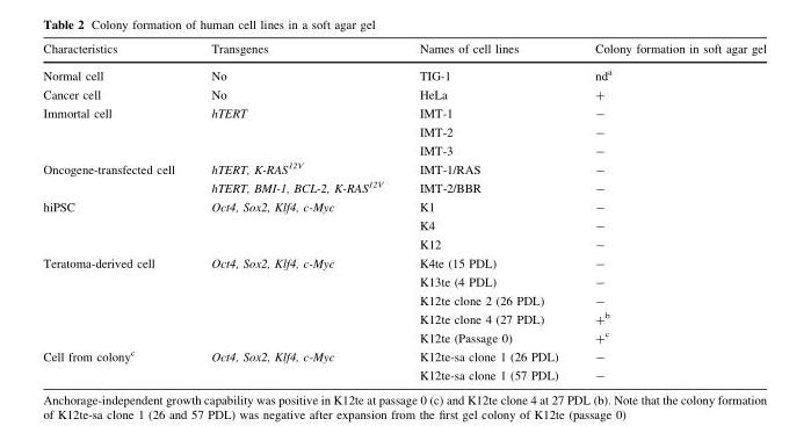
<table><thead><tr><td>Characteristics</td><td>Transgenes</td><td>Names of cell lines</td><td>Colony formation in soft agar gel</td></tr></thead><tbody><tr><td>Normal cell</td><td>No</td><td>TIG-1</td><td>nd<sup>a</sup></td></tr><tr><td>Cancer cell</td><td>No</td><td>HeLa</td><td>+</td></tr><tr><td rowspan="3">Immortal cell</td><td rowspan="3">hTERT</td><td>IMT-1</td><td>-</td></tr><tr><td>IMT-2</td><td>-</td></tr><tr><td>IMT-3</td><td>-</td></tr><tr><td rowspan="2">Oncogene-transfected cell</td><td>hTERT, K-RAS<sup>12V</sup></td><td>IMT-1/RAS</td><td>-</td></tr><tr><td>hTERT, BMI-1, BCL-2, K-RAS<sup>12V</sup></td><td>IMT-2/BBR</td><td>-</td></tr><tr><td rowspan="3">hiPSC</td><td rowspan="3">Oct4, Sox2, Klf4, c-Myc</td><td>K1</td><td>-</td></tr><tr><td>K4</td><td>-</td></tr><tr><td>K12</td><td>-</td></tr><tr><td rowspan="5">Teratoma-derived cell</td><td rowspan="5">Oct4, Sox2, Klf4, c-Myc</td><td>K4te (15 PDL)</td><td>-</td></tr><tr><td>K13te (4 PDL)</td><td>-</td></tr><tr><td>K12te clone 2 (26 PDL)</td><td>-</td></tr><tr><td>K12te clone 4 (27 PDL)</td><td>+<sup>b</sup></td></tr><tr><td>K12te (Passage 0)</td><td>+<sup>c</sup></td></tr><tr><td rowspan="2">Cell from colony<sup>c</sup></td><td rowspan="2">Oct4, Sox2, Klf4, c-Myc</td><td>K12te-sa clone 1 (26 PDL)</td><td>-</td></tr><tr><td>K12te-sa clone 1 (57 PDL)</td><td>-</td></tr></tbody></table>